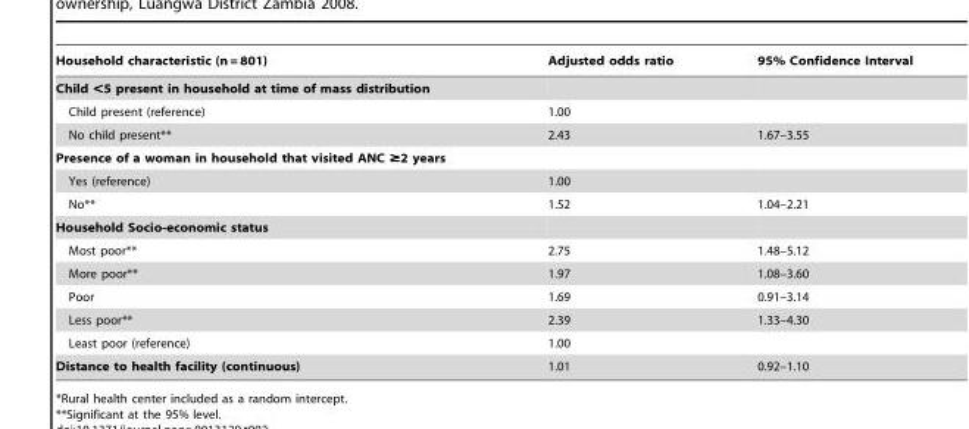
<table><thead><tr><td>Household characteristic (n = 801)</td><td>Adjusted odds ratio</td><td>95% Confidence Interval</td></tr></thead><tbody><tr><td colspan="3">Child &lt;5 present in household at time of mass distribution</td></tr><tr><td>Child present (reference)</td><td>1.00</td><td></td></tr><tr><td>No child present**</td><td>2.43</td><td>1.67–3.55</td></tr><tr><td colspan="3">Presence of a woman in household that visited ANC ≥2 years</td></tr><tr><td>Yes (reference)</td><td>1.00</td><td></td></tr><tr><td>No**</td><td>1.52</td><td>1.04–2.21</td></tr><tr><td colspan="3">Household Socio-economic status</td></tr><tr><td>Most poor**</td><td>2.75</td><td>1.48–5.12</td></tr><tr><td>More poor**</td><td>1.97</td><td>1.08–3.60</td></tr><tr><td>Poor</td><td>1.69</td><td>0.91–3.14</td></tr><tr><td>Less poor**</td><td>2.39</td><td>1.33–4.30</td></tr><tr><td>Least poor (reference)</td><td>1.00</td><td></td></tr><tr><td>Distance to health facility (continuous)</td><td>1.01</td><td>0.92–1.10</td></tr></tbody></table>